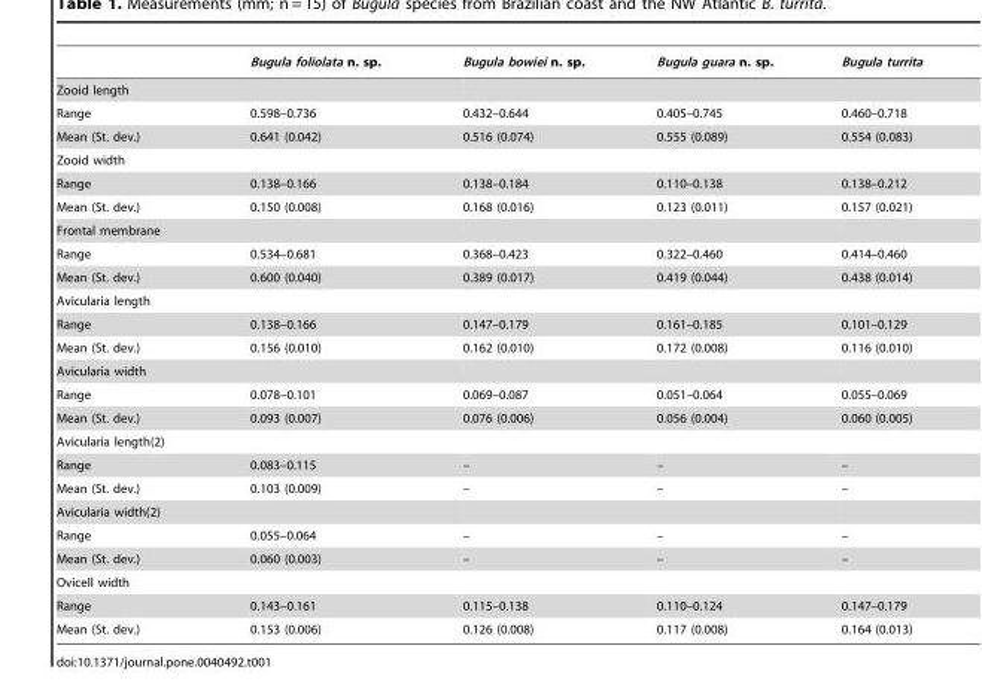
<table><thead><tr><td></td><td>Bugula foliolata n. sp.</td><td>Bugula bowiei n. sp.</td><td>Bugula guara n. sp.</td><td>Bugula turrita</td></tr></thead><tbody><tr><td colspan="5">Zooid length</td></tr><tr><td>Range</td><td>0.598–0.736</td><td>0.432–0.644</td><td>0.405–0.745</td><td>0.460–0.718</td></tr><tr><td>Mean (St. dev.)</td><td>0.641 (0.042)</td><td>0.516 (0.074)</td><td>0.555 (0.089)</td><td>0.554 (0.083)</td></tr><tr><td colspan="5">Zooid width</td></tr><tr><td>Range</td><td>0.138–0.166</td><td>0.138–0.184</td><td>0.110–0.138</td><td>0.138–0.212</td></tr><tr><td>Mean (St. dev.)</td><td>0.150 (0.008)</td><td>0.168 (0.016)</td><td>0.123 (0.011)</td><td>0.157 (0.021)</td></tr><tr><td colspan="5">Frontal membrane</td></tr><tr><td>Range</td><td>0.534–0.681</td><td>0.368–0.423</td><td>0.322–0.460</td><td>0.414–0.460</td></tr><tr><td>Mean (St. dev.)</td><td>0.600 (0.040)</td><td>0.389 (0.017)</td><td>0.419 (0.044)</td><td>0.438 (0.014)</td></tr><tr><td colspan="5">Avicularia length</td></tr><tr><td>Range</td><td>0.138–0.166</td><td>0.147–0.179</td><td>0.161–0.185</td><td>0.101–0.129</td></tr><tr><td>Mean (St. dev.)</td><td>0.156 (0.010)</td><td>0.162 (0.010)</td><td>0.172 (0.008)</td><td>0.116 (0.010)</td></tr><tr><td colspan="5">Avicularia width</td></tr><tr><td>Range</td><td>0.078–0.101</td><td>0.069–0.087</td><td>0.051–0.064</td><td>0.055–0.069</td></tr><tr><td>Mean (St. dev.)</td><td>0.093 (0.007)</td><td>0.076 (0.006)</td><td>0.056 (0.004)</td><td>0.060 (0.005)</td></tr><tr><td colspan="5">Avicularia length(2)</td></tr><tr><td>Range</td><td>0.083–0.115</td><td>–</td><td>–</td><td>–</td></tr><tr><td>Mean (St. dev.)</td><td>0.103 (0.009)</td><td>–</td><td>–</td><td>–</td></tr><tr><td colspan="5">Avicularia width(2)</td></tr><tr><td>Range</td><td>0.055–0.064</td><td>–</td><td>–</td><td>–</td></tr><tr><td>Mean (St. dev.)</td><td>0.060 (0.003)</td><td>–</td><td>–</td><td>–</td></tr><tr><td colspan="5">Ovicell width</td></tr><tr><td>Range</td><td>0.143–0.161</td><td>0.115–0.138</td><td>0.110–0.124</td><td>0.147–0.179</td></tr><tr><td>Mean (St. dev.)</td><td>0.153 (0.006)</td><td>0.126 (0.008)</td><td>0.117 (0.008)</td><td>0.164 (0.013)</td></tr></tbody></table>